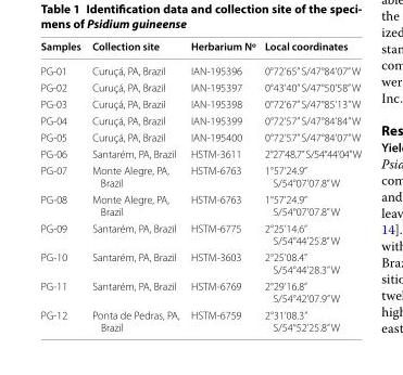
<table><thead><tr><td>Samples</td><td>Collection site</td><td>Herbarium Nº</td><td>Local coordinates</td></tr></thead><tbody><tr><td>PG-01</td><td>Curuçá, PA, Brazil</td><td>IAN-195396</td><td>0°72’65” S/47°84’07” W</td></tr><tr><td>PG-02</td><td>Curuçá, PA, Brazil</td><td>IAN-195397</td><td>0°43’40” S/47°50’58” W</td></tr><tr><td>PG-03</td><td>Curuçá, PA, Brazil</td><td>IAN-195398</td><td>0°72’67” S/47°85’13” W</td></tr><tr><td>PG-04</td><td>Curuçá, PA, Brazil</td><td>IAN-195399</td><td>0°72’57” S/47°84’84” W</td></tr><tr><td>PG-05</td><td>Curuçá, PA, Brazil</td><td>IAN-195400</td><td>0°72’57” S/47°84’07” W</td></tr><tr><td>PG-06</td><td>Santarém, PA, Brazil</td><td>HSTM-3611</td><td>2°27’48.7” S/54°44’04” W</td></tr><tr><td>PG-07</td><td>Monte Alegre, PA, Brazil</td><td>HSTM-6763</td><td>1°57’24.9” S/54°07’07.8” W</td></tr><tr><td>PG-08</td><td>Monte Alegre, PA, Brazil</td><td>HSTM-6763</td><td>1°57’24.9” S/54°07’07.8” W</td></tr><tr><td>PG-09</td><td>Santarém, PA, Brazil</td><td>HSTM-6775</td><td>2°25’14.6” S/54°44’25.8” W</td></tr><tr><td>PG-10</td><td>Santarém, PA, Brazil</td><td>HSTM-3603</td><td>2°25’08.4” S/54°44’28.3” W</td></tr><tr><td>PG-11</td><td>Santarém, PA, Brazil</td><td>HSTM-6769</td><td>2°29’16.8” S/54°42’07.9” W</td></tr><tr><td>PG-12</td><td>Ponta de Pedras, PA, Brazil</td><td>HSTM-6759</td><td>2°31’08.3” S/54°52’25.8” W</td></tr></tbody></table>